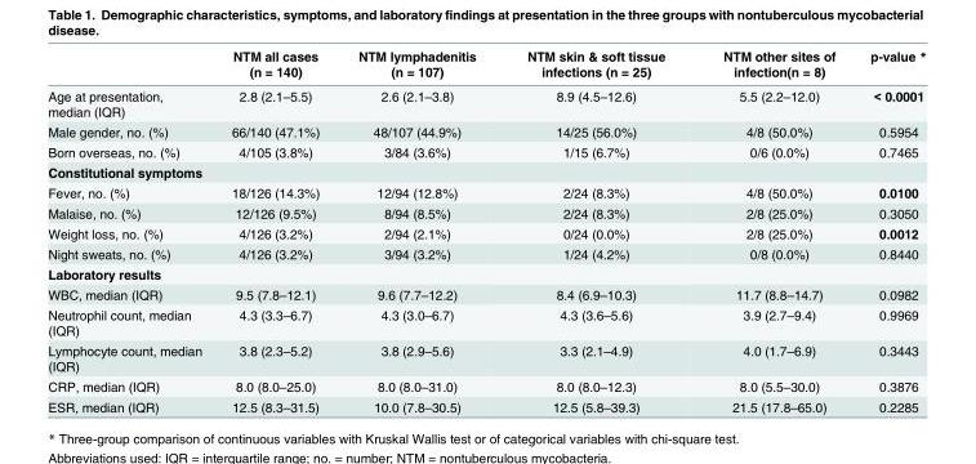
<table><thead><tr><td></td><td>NTM all cases (n = 140)</td><td>NTM lymphadenitis (n = 107)</td><td>NTM skin &amp; soft tissue infections (n = 25)</td><td>NTM other sites of infection(n = 8)</td><td>p-value *</td></tr></thead><tbody><tr><td>Age at presentation, median (IQR)</td><td>2.8 (2.1–5.5)</td><td>2.6 (2.1–3.8)</td><td>8.9 (4.5–12.6)</td><td>5.5 (2.2–12.0)</td><td>&lt; 0.0001</td></tr><tr><td>Male gender, no. (%)</td><td>66/140 (47.1%)</td><td>48/107 (44.9%)</td><td>14/25 (56.0%)</td><td>4/8 (50.0%)</td><td>0.5954</td></tr><tr><td>Born overseas, no. (%)</td><td>4/105 (3.8%)</td><td>3/84 (3.6%)</td><td>1/15 (6.7%)</td><td>0/6 (0.0%)</td><td>0.7465</td></tr><tr><td colspan="6">Constitutional symptoms</td></tr><tr><td>Fever, no. (%)</td><td>18/126 (14.3%)</td><td>12/94 (12.8%)</td><td>2/24 (8.3%)</td><td>4/8 (50.0%)</td><td>0.0100</td></tr><tr><td>Malaise, no. (%)</td><td>12/126 (9.5%)</td><td>8/94 (8.5%)</td><td>2/24 (8.3%)</td><td>2/8 (25.0%)</td><td>0.3050</td></tr><tr><td>Weight loss, no. (%)</td><td>4/126 (3.2%)</td><td>2/94 (2.1%)</td><td>0/24 (0.0%)</td><td>2/8 (25.0%)</td><td>0.0012</td></tr><tr><td>Night sweats, no. (%)</td><td>4/126 (3.2%)</td><td>3/94 (3.2%)</td><td>1/24 (4.2%)</td><td>0/8 (0.0%)</td><td>0.8440</td></tr><tr><td colspan="6">Laboratory results</td></tr><tr><td>WBC, median (IQR)</td><td>9.5 (7.8–12.1)</td><td>9.6 (7.7–12.2)</td><td>8.4 (6.9–10.3)</td><td>11.7 (8.8–14.7)</td><td>0.0982</td></tr><tr><td>Neutrophil count, median (IQR)</td><td>4.3 (3.3–6.7)</td><td>4.3 (3.0–6.7)</td><td>4.3 (3.6–5.6)</td><td>3.9 (2.7–9.4)</td><td>0.9969</td></tr><tr><td>Lymphocyte count, median (IQR)</td><td>3.8 (2.3–5.2)</td><td>3.8 (2.9–5.6)</td><td>3.3 (2.1–4.9)</td><td>4.0 (1.7–6.9)</td><td>0.3443</td></tr><tr><td>CRP, median (IQR)</td><td>8.0 (8.0–25.0)</td><td>8.0 (8.0–31.0)</td><td>8.0 (8.0–12.3)</td><td>8.0 (5.5–30.0)</td><td>0.3876</td></tr><tr><td>ESR, median (IQR)</td><td>12.5 (8.3–31.5)</td><td>10.0 (7.8–30.5)</td><td>12.5 (5.8–39.3)</td><td>21.5 (17.8–65.0)</td><td>0.2285</td></tr></tbody></table>